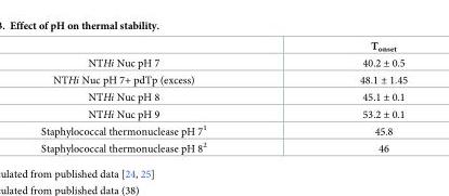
<table><thead><tr><td></td><td>T<sub>onset</sub></td></tr></thead><tbody><tr><td>NTHi Nuc pH 7</td><td>40.2 ± 0.5</td></tr><tr><td>NTHi Nuc pH 7+ pdTp (excess)</td><td>48.1 ± 1.45</td></tr><tr><td>NTHi Nuc pH 8</td><td>45.1 ± 0.1</td></tr><tr><td>NTHi Nuc pH 9</td><td>53.2 ± 0.1</td></tr><tr><td>Staphylococcal thermonuclease pH 7<sup>1</sup></td><td>45.8</td></tr><tr><td>Staphylococcal thermonuclease pH 8<sup>2</sup></td><td>46</td></tr></tbody></table>